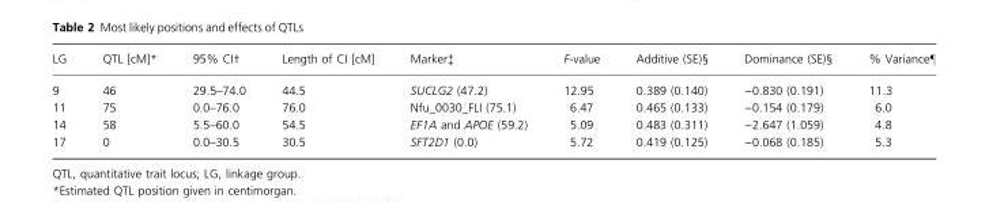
<table><thead><tr><td>LG</td><td>QTL [cM]*</td><td>95% CI†</td><td>Length of CI [cM]</td><td>Marker‡</td><td>F-value</td><td>Additive (SE)§</td><td>Dominance (SE)§</td><td>% Variance–</td></tr></thead><tbody><tr><td>9</td><td>46</td><td>29.5–74.0</td><td>44.5</td><td>SUCLG2 (47.2)</td><td>12.95</td><td>0.389 (0.140)</td><td>−0.830 (0.191)</td><td>11.3</td></tr><tr><td>11</td><td>75</td><td>0.0–76.0</td><td>76.0</td><td>Nfu_0030_FLI (75.1)</td><td>6.47</td><td>0.465 (0.133)</td><td>−0.154 (0.179)</td><td>6.0</td></tr><tr><td>14</td><td>58</td><td>5.5–60.0</td><td>54.5</td><td>EF1A and APOE (59.2)</td><td>5.09</td><td>0.483 (0.311)</td><td>−2.647 (1.059)</td><td>4.8</td></tr><tr><td>17</td><td>0</td><td>0.0–30.5</td><td>30.5</td><td>SFT2D1 (0.0)</td><td>5.72</td><td>0.419 (0.125)</td><td>−0.068 (0.185)</td><td>5.3</td></tr></tbody></table>